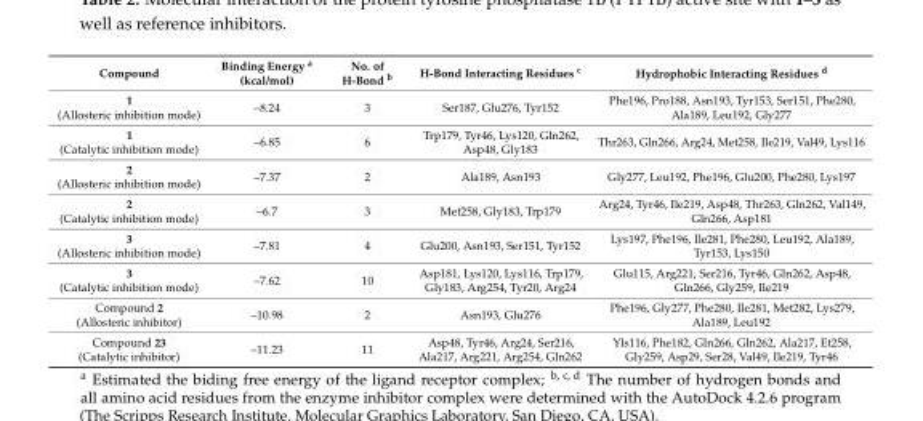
<table><thead><tr><td>Compound</td><td>Binding Energy <sup>a</sup> (kcal/mol)</td><td>No. of H-Bond <sup>b</sup></td><td>H-Bond Interacting Residues <sup>c</sup></td><td>Hydrophobic Interacting Residues <sup>d</sup></td></tr></thead><tbody><tr><td>1 (Allosteric inhibition mode)</td><td>–8.24</td><td>3</td><td>Ser187, Glu276, Tyr152</td><td>Phe196, Pro188, Asn193, Tyr153, Ser151, Phe280, Ala189, Leu192, Gly277</td></tr><tr><td>1 (Catalytic inhibition mode)</td><td>–6.85</td><td>6</td><td>Trp179, Tyr46, Lys120, Gln262, Asp48, Gly183</td><td>Thr263, Gln266, Arg24, Met258, Ile219, Val49, Lys116</td></tr><tr><td>2 (Allosteric inhibition mode)</td><td>–7.37</td><td>2</td><td>Ala189, Asn193</td><td>Gly277, Leu192, Phe196, Glu200, Phe280, Lys197</td></tr><tr><td>2 (Catalytic inhibition mode)</td><td>–6.7</td><td>3</td><td>Met258, Gly183, Trp179</td><td>Arg24, Tyr46, Ile219, Asp48, Thr263, Gln262, Val149, Gln266, Asp181</td></tr><tr><td>3 (Allosteric inhibition mode)</td><td>–7.81</td><td>4</td><td>Glu200, Asn193, Ser151, Tyr152</td><td>Lys197, Phe196, Ile281, Phe280, Leu192, Ala189, Tyr153, Lys150</td></tr><tr><td>3 (Catalytic inhibition mode)</td><td>–7.62</td><td>10</td><td>Asp181, Lys120, Lys116, Trp179, Gly183, Arg254, Tyr20, Arg24</td><td>Glu115, Arg221, Ser216, Tyr46, Gln262, Asp48, Gln266, Gly259, Ile219</td></tr><tr><td>Compound 2 (Allosteric inhibitor)</td><td>–10.98</td><td>2</td><td>Asn193, Glu276</td><td>Phe196, Gly277, Phe280, Ile281, Met282, Lys279, Ala189, Leu192</td></tr><tr><td>Compound 23 (Catalytic inhibitor)</td><td>–11.23</td><td>11</td><td>Asp48, Tyr46, Arg24, Ser216, Ala217, Arg221, Arg254, Gln262</td><td>Yls116, Phe182, Gln266, Gln262, Ala217, Et258, Gly259, Asp29, Ser28, Val49, Ile219, Tyr46</td></tr></tbody></table>